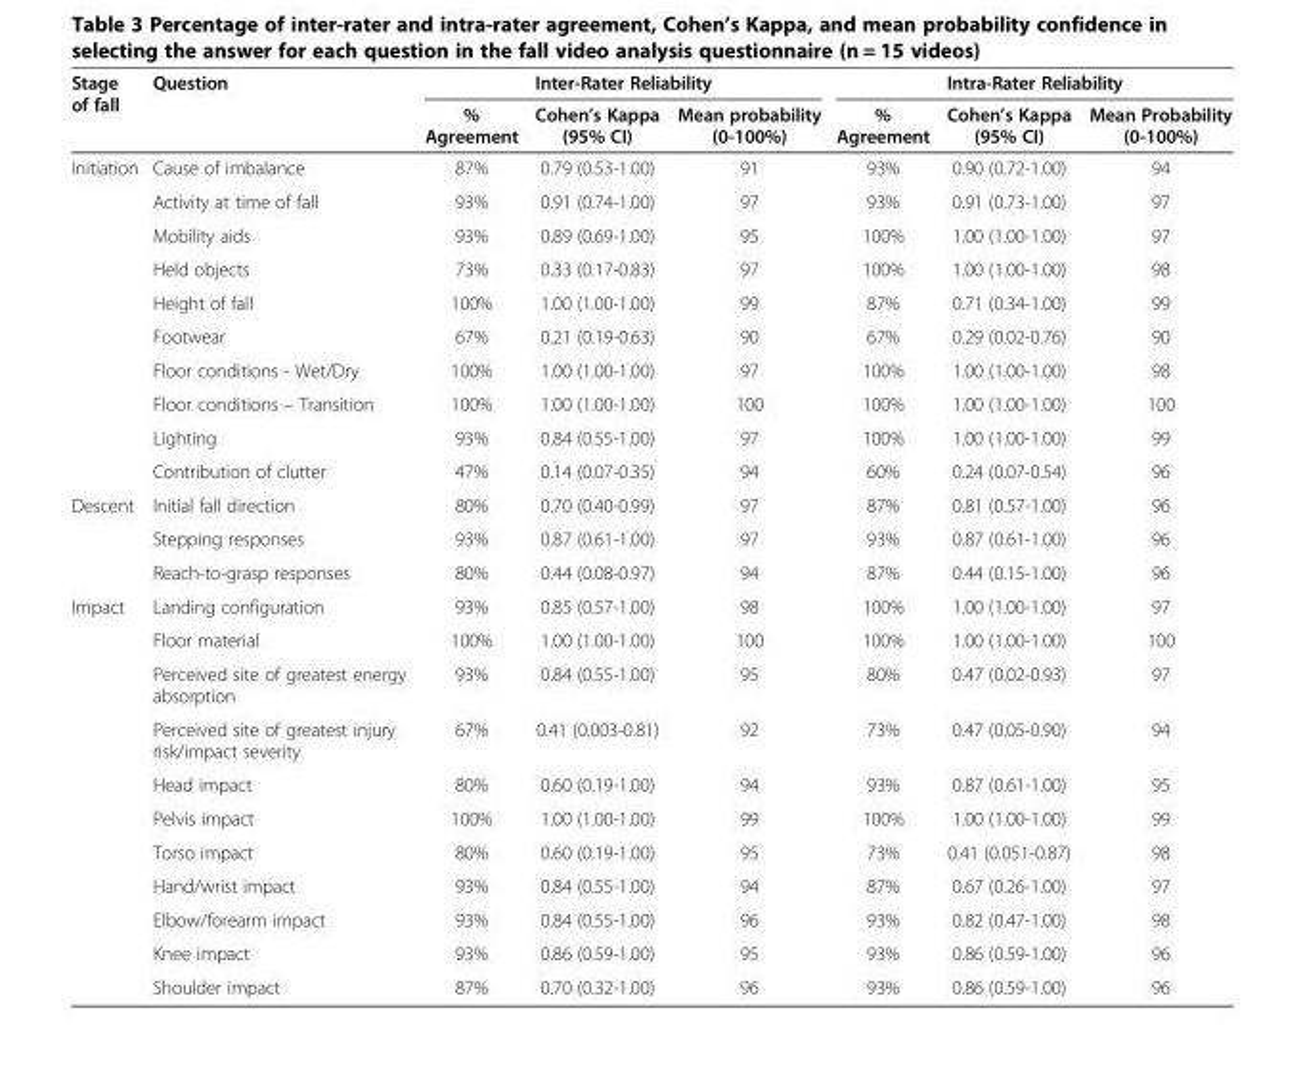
<table><thead><tr><td rowspan="2">Stage of fall</td><td rowspan="2">Question</td><td colspan="3">Inter-Rater Reliability</td><td colspan="3">Intra-Rater Reliability</td></tr><tr><td>% Agreement</td><td>Cohen’s Kappa (95% CI)</td><td>Mean probability (0-100%)</td><td>% Agreement</td><td>Cohen’s Kappa (95% CI)</td><td>Mean Probability (0-100%)</td></tr></thead><tbody><tr><td rowspan="10">Initiation</td><td>Cause of imbalance</td><td>87%</td><td>0.79 (0.53-1.00)</td><td>91</td><td>93%</td><td>0.90 (0.72-1.00)</td><td>94</td></tr><tr><td>Activity at time of fall</td><td>93%</td><td>0.91 (0.74-1.00)</td><td>97</td><td>93%</td><td>0.91 (0.73-1.00)</td><td>97</td></tr><tr><td>Mobility aids</td><td>93%</td><td>0.89 (0.69-1.00)</td><td>95</td><td>100%</td><td>1.00 (1.00-1.00)</td><td>97</td></tr><tr><td>Held objects</td><td>73%</td><td>0.33 (0.17-0.83)</td><td>97</td><td>100%</td><td>1.00 (1.00-1.00)</td><td>98</td></tr><tr><td>Height of fall</td><td>100%</td><td>1.00 (1.00-1.00)</td><td>99</td><td>87%</td><td>0.71 (0.34-1.00)</td><td>99</td></tr><tr><td>Footwear</td><td>67%</td><td>0.21 (0.19-0.63)</td><td>90</td><td>67%</td><td>0.29 (0.02-0.76)</td><td>90</td></tr><tr><td>Floor conditions - Wet/Dry</td><td>100%</td><td>1.00 (1.00-1.00)</td><td>97</td><td>100%</td><td>1.00 (1.00-1.00)</td><td>98</td></tr><tr><td>Floor conditions – Transition</td><td>100%</td><td>1.00 (1.00-1.00)</td><td>100</td><td>100%</td><td>1.00 (1.00-1.00)</td><td>100</td></tr><tr><td>Lighting</td><td>93%</td><td>0.84 (0.55-1.00)</td><td>97</td><td>100%</td><td>1.00 (1.00-1.00)</td><td>99</td></tr><tr><td>Contribution of clutter</td><td>47%</td><td>0.14 (0.07-0.35)</td><td>94</td><td>60%</td><td>0.24 (0.07-0.54)</td><td>96</td></tr><tr><td rowspan="3">Descent</td><td>Initial fall direction</td><td>80%</td><td>0.70 (0.40-0.99)</td><td>97</td><td>87%</td><td>0.81 (0.57-1.00)</td><td>96</td></tr><tr><td>Stepping responses</td><td>93%</td><td>0.87 (0.61-1.00)</td><td>97</td><td>93%</td><td>0.87 (0.61-1.00)</td><td>96</td></tr><tr><td>Reach-to-grasp responses</td><td>80%</td><td>0.44 (0.08-0.97)</td><td>94</td><td>87%</td><td>0.44 (0.15-1.00)</td><td>96</td></tr><tr><td rowspan="11">Impact</td><td>Landing configuration</td><td>93%</td><td>0.85 (0.57-1.00)</td><td>98</td><td>100%</td><td>1.00 (1.00-1.00)</td><td>97</td></tr><tr><td>Floor material</td><td>100%</td><td>1.00 (1.00-1.00)</td><td>100</td><td>100%</td><td>1.00 (1.00-1.00)</td><td>100</td></tr><tr><td>Perceived site of greatest energy absorption</td><td>93%</td><td>0.84 (0.55-1.00)</td><td>95</td><td>80%</td><td>0.47 (0.02-0.93)</td><td>97</td></tr><tr><td>Perceived site of greatest injury risk/impact severity</td><td>67%</td><td>0.41 (0.003-0.81)</td><td>92</td><td>73%</td><td>0.47 (0.05-0.90)</td><td>94</td></tr><tr><td>Head impact</td><td>80%</td><td>0.60 (0.19-1.00)</td><td>94</td><td>93%</td><td>0.87 (0.61-1.00)</td><td>95</td></tr><tr><td>Pelvis impact</td><td>100%</td><td>1.00 (1.00-1.00)</td><td>99</td><td>100%</td><td>1.00 (1.00-1.00)</td><td>99</td></tr><tr><td>Torso impact</td><td>80%</td><td>0.60 (0.19-1.00)</td><td>95</td><td>73%</td><td>0.41 (0.051-0.87)</td><td>98</td></tr><tr><td>Hand/wrist impact</td><td>93%</td><td>0.84 (0.55-1.00)</td><td>94</td><td>87%</td><td>0.67 (0.26-1.00)</td><td>97</td></tr><tr><td>Elbow/forearm impact</td><td>93%</td><td>0.84 (0.55-1.00)</td><td>96</td><td>93%</td><td>0.82 (0.47-1.00)</td><td>98</td></tr><tr><td>Knee impact</td><td>93%</td><td>0.86 (0.59-1.00)</td><td>95</td><td>93%</td><td>0.86 (0.59-1.00)</td><td>96</td></tr><tr><td>Shoulder impact</td><td>87%</td><td>0.70 (0.32-1.00)</td><td>96</td><td>93%</td><td>0.86 (0.59-1.00)</td><td>96</td></tr></tbody></table>